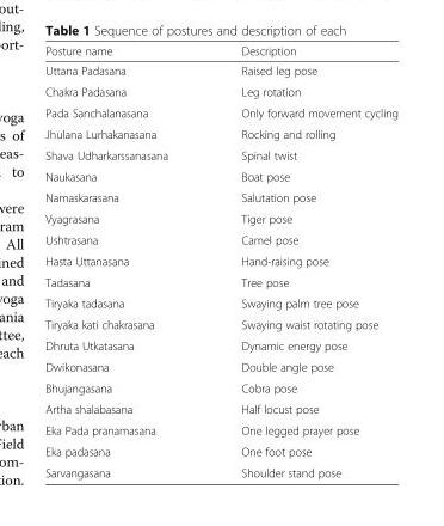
<table><thead><tr><td>Posture name</td><td>Description</td></tr></thead><tbody><tr><td>Uttana Padasana</td><td>Raised leg pose</td></tr><tr><td>Chakra Padasana</td><td>Leg rotation</td></tr><tr><td>Pada Sanchalanasana</td><td>Only forward movement cycling</td></tr><tr><td>Jhulana Lurhakanasana</td><td>Rocking and rolling</td></tr><tr><td>Shava Udharkarssanasana</td><td>Spinal twist</td></tr><tr><td>Naukasana</td><td>Boat pose</td></tr><tr><td>Namaskarasana</td><td>Salutation pose</td></tr><tr><td>Vyagrasana</td><td>Tiger pose</td></tr><tr><td>Ushtrasana</td><td>Camel pose</td></tr><tr><td>Hasta Uttanasana</td><td>Hand-raising pose</td></tr><tr><td>Tadasana</td><td>Tree pose</td></tr><tr><td>Tiryaka tadasana</td><td>Swaying palm tree pose</td></tr><tr><td>Tiryaka kati chakrasana</td><td>Swaying waist rotating pose</td></tr><tr><td>Dhruta Utkatasana</td><td>Dynamic energy pose</td></tr><tr><td>Dwikonasana</td><td>Double angle pose</td></tr><tr><td>Bhujangasana</td><td>Cobra pose</td></tr><tr><td>Artha shalabasana</td><td>Half locust pose</td></tr><tr><td>Eka Pada pranamasana</td><td>One legged prayer pose</td></tr><tr><td>Eka padasana</td><td>One foot pose</td></tr><tr><td>Sarvangasana</td><td>Shoulder stand pose</td></tr></tbody></table>